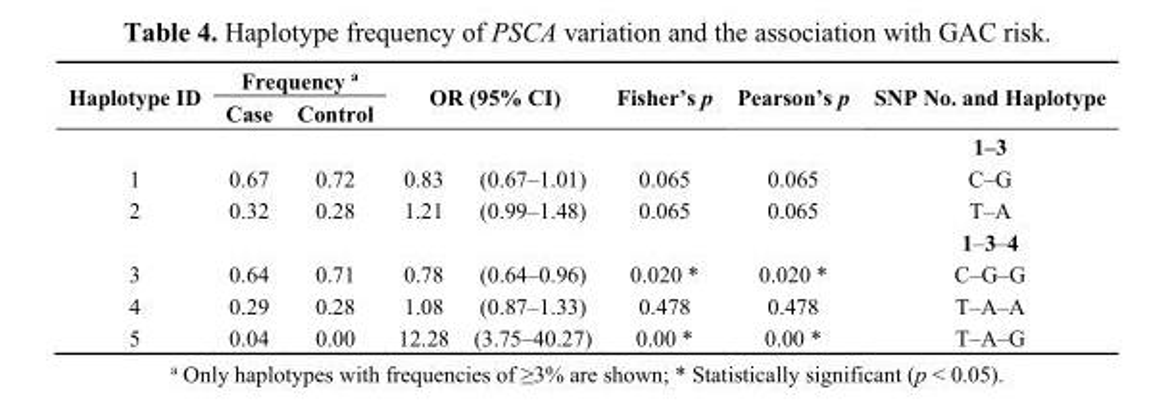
<table><thead><tr><td rowspan="3">Haplotype ID</td><td colspan="2">Frequency <sup>a</sup></td><td rowspan="2" colspan="2">OR (95% CI)</td><td rowspan="3">Fisher’s p</td><td rowspan="3">Pearson’s p</td><td rowspan="3">SNP No. and Haplotype 1–3</td></tr><tr><td rowspan="2">Case</td><td rowspan="2">Control</td></tr><tr><td></td><td></td></tr></thead><tbody><tr><td>1</td><td>0.67</td><td>0.72</td><td>0.83</td><td>(0.67–1.01)</td><td>0.065</td><td>0.065</td><td>C–G</td></tr><tr><td rowspan="2">2</td><td>0.32</td><td>0.28</td><td>1.21</td><td>(0.99–1.48)</td><td>0.065</td><td>0.065</td><td>T–A</td></tr><tr><td></td><td></td><td></td><td></td><td></td><td></td><td>1–3–4</td></tr><tr><td>3</td><td>0.64</td><td>0.71</td><td>0.78</td><td>(0.64–0.96)</td><td>0.020 *</td><td>0.020 *</td><td>C–G–G</td></tr><tr><td>4</td><td>0.29</td><td>0.28</td><td>1.08</td><td>(0.87–1.33)</td><td>0.478</td><td>0.478</td><td>T–A–A</td></tr><tr><td>5</td><td>0.04</td><td>0.00</td><td>12.28</td><td>(3.75–40.27)</td><td>0.00 *</td><td>0.00 *</td><td>T–A–G</td></tr></tbody></table>